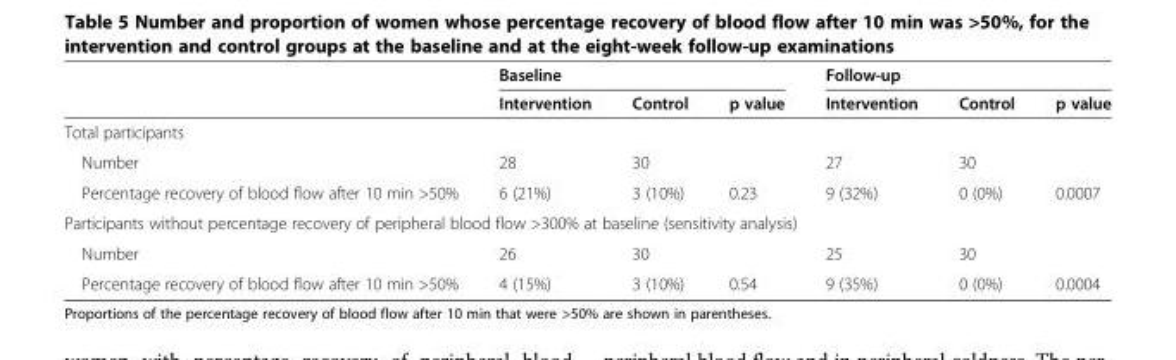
<table><thead><tr><td rowspan="2"></td><td colspan="3">Baseline</td><td colspan="3">Follow-up</td></tr><tr><td>Intervention</td><td>Control</td><td>p value</td><td>Intervention</td><td>Control</td><td>p value</td></tr></thead><tbody><tr><td colspan="7">Total participants</td></tr><tr><td>Number</td><td>28</td><td>30</td><td></td><td>27</td><td>30</td><td></td></tr><tr><td>Percentage recovery of blood flow after 10 min &gt;50%</td><td>6 (21%)</td><td>3 (10%)</td><td>0.23</td><td>9 (32%)</td><td>0 (0%)</td><td>0.0007</td></tr><tr><td colspan="7">Participants without percentage recovery of peripheral blood flow &gt;300% at baseline (sensitivity analysis)</td></tr><tr><td>Number</td><td>26</td><td>30</td><td></td><td>25</td><td>30</td><td></td></tr><tr><td>Percentage recovery of blood flow after 10 min &gt;50%</td><td>4 (15%)</td><td>3 (10%)</td><td>0.54</td><td>9 (35%)</td><td>0 (0%)</td><td>0.0004</td></tr></tbody></table>